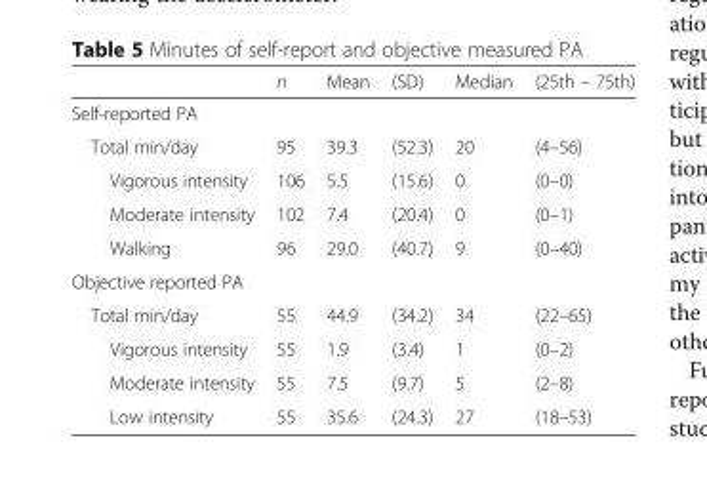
<table><thead><tr><td></td><td>n</td><td>Mean</td><td>(SD)</td><td>Median</td><td>(25th – 75th)</td></tr></thead><tbody><tr><td colspan="6">Self-reported PA</td></tr><tr><td>Total min/day</td><td>95</td><td>39.3</td><td>(52.3)</td><td>20</td><td>(4–56)</td></tr><tr><td>Vigorous intensity</td><td>106</td><td>5.5</td><td>(15.6)</td><td>0</td><td>(0–0)</td></tr><tr><td>Moderate intensity</td><td>102</td><td>7.4</td><td>(20.4)</td><td>0</td><td>(0–1)</td></tr><tr><td>Walking</td><td>96</td><td>29.0</td><td>(40.7)</td><td>9</td><td>(0–40)</td></tr><tr><td colspan="6">Objective reported PA</td></tr><tr><td>Total min/day</td><td>55</td><td>44.9</td><td>(34.2)</td><td>34</td><td>(22–65)</td></tr><tr><td>Vigorous intensity</td><td>55</td><td>1.9</td><td>(3.4)</td><td>1</td><td>(0–2)</td></tr><tr><td>Moderate intensity</td><td>55</td><td>7.5</td><td>(9.7)</td><td>5</td><td>(2–8)</td></tr><tr><td>Low intensity</td><td>55</td><td>35.6</td><td>(24.3)</td><td>27</td><td>(18–53)</td></tr></tbody></table>